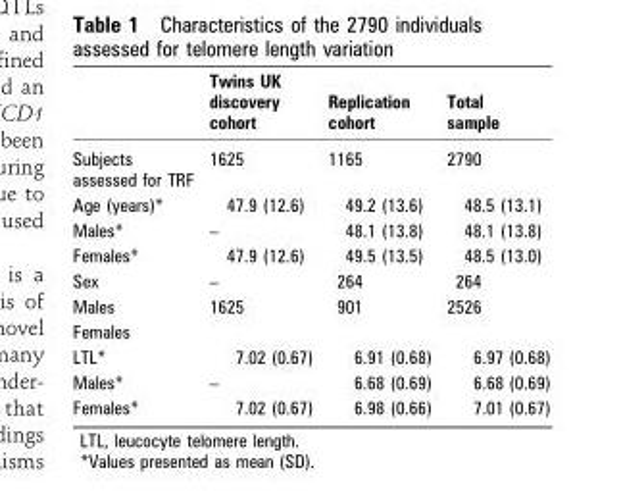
<table><thead><tr><td></td><td>Twins UK discovery cohort</td><td>Replication cohort</td><td>Total sample</td></tr></thead><tbody><tr><td>Subjects assessed for TRF</td><td>1625</td><td>1165</td><td>2790</td></tr><tr><td>Age (years)*</td><td>47.9 (12.6)</td><td>49.2 (13.6)</td><td>48.5 (13.1)</td></tr><tr><td>Males*</td><td>–</td><td>48.1 (13.8)</td><td>48.1 (13.8)</td></tr><tr><td>Females*</td><td>47.9 (12.6)</td><td>49.5 (13.5)</td><td>48.5 (13.0)</td></tr><tr><td>Sex</td><td>–</td><td>264</td><td>264</td></tr><tr><td>Males</td><td>1625</td><td>901</td><td>2526</td></tr><tr><td colspan="4">Females</td></tr><tr><td>LTL*</td><td>7.02 (0.67)</td><td>6.91 (0.68)</td><td>6.97 (0.68)</td></tr><tr><td>Males*</td><td>–</td><td>6.68 (0.69)</td><td>6.68 (0.69)</td></tr><tr><td>Females*</td><td>7.02 (0.67)</td><td>6.98 (0.66)</td><td>7.01 (0.67)</td></tr></tbody></table>